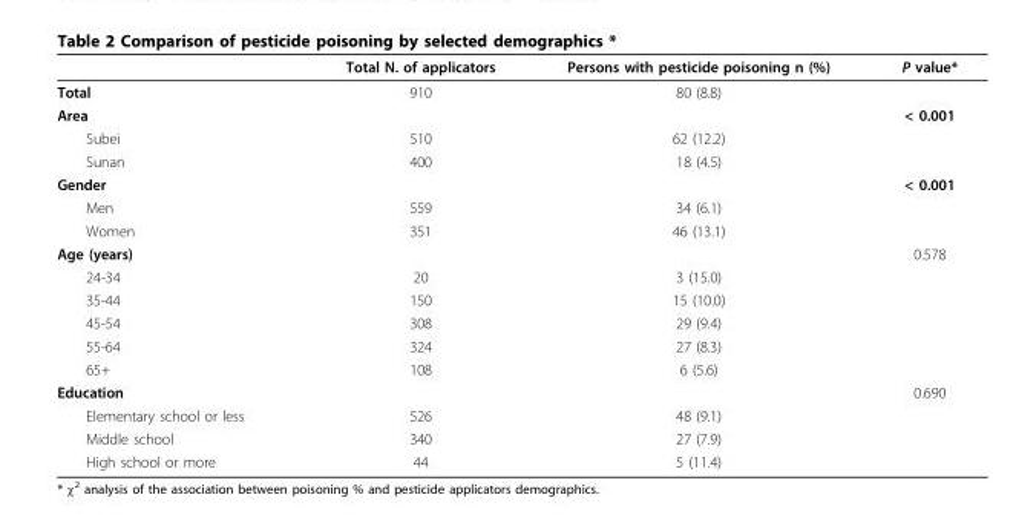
<table><thead><tr><td></td><td>Total N. of applicators</td><td>Persons with pesticide poisoning n (%)</td><td>P value*</td></tr></thead><tbody><tr><td>Total</td><td>910</td><td>80 (8.8)</td><td></td></tr><tr><td>Area</td><td></td><td></td><td>&lt; 0.001</td></tr><tr><td>Subei</td><td>510</td><td>62 (12.2)</td><td></td></tr><tr><td>Sunan</td><td>400</td><td>18 (4.5)</td><td></td></tr><tr><td>Gender</td><td></td><td></td><td>&lt; 0.001</td></tr><tr><td>Men</td><td>559</td><td>34 (6.1)</td><td></td></tr><tr><td>Women</td><td>351</td><td>46 (13.1)</td><td></td></tr><tr><td>Age (years)</td><td></td><td></td><td>0.578</td></tr><tr><td>24-34</td><td>20</td><td>3 (15.0)</td><td></td></tr><tr><td>35-44</td><td>150</td><td>15 (10.0)</td><td></td></tr><tr><td>45-54</td><td>308</td><td>29 (9.4)</td><td></td></tr><tr><td>55-64</td><td>324</td><td>27 (8.3)</td><td></td></tr><tr><td>65+</td><td>108</td><td>6 (5.6)</td><td></td></tr><tr><td>Education</td><td></td><td></td><td>0.690</td></tr><tr><td>Elementary school or less</td><td>526</td><td>48 (9.1)</td><td></td></tr><tr><td>Middle school</td><td>340</td><td>27 (7.9)</td><td></td></tr><tr><td>High school or more</td><td>44</td><td>5 (11.4)</td><td></td></tr></tbody></table>